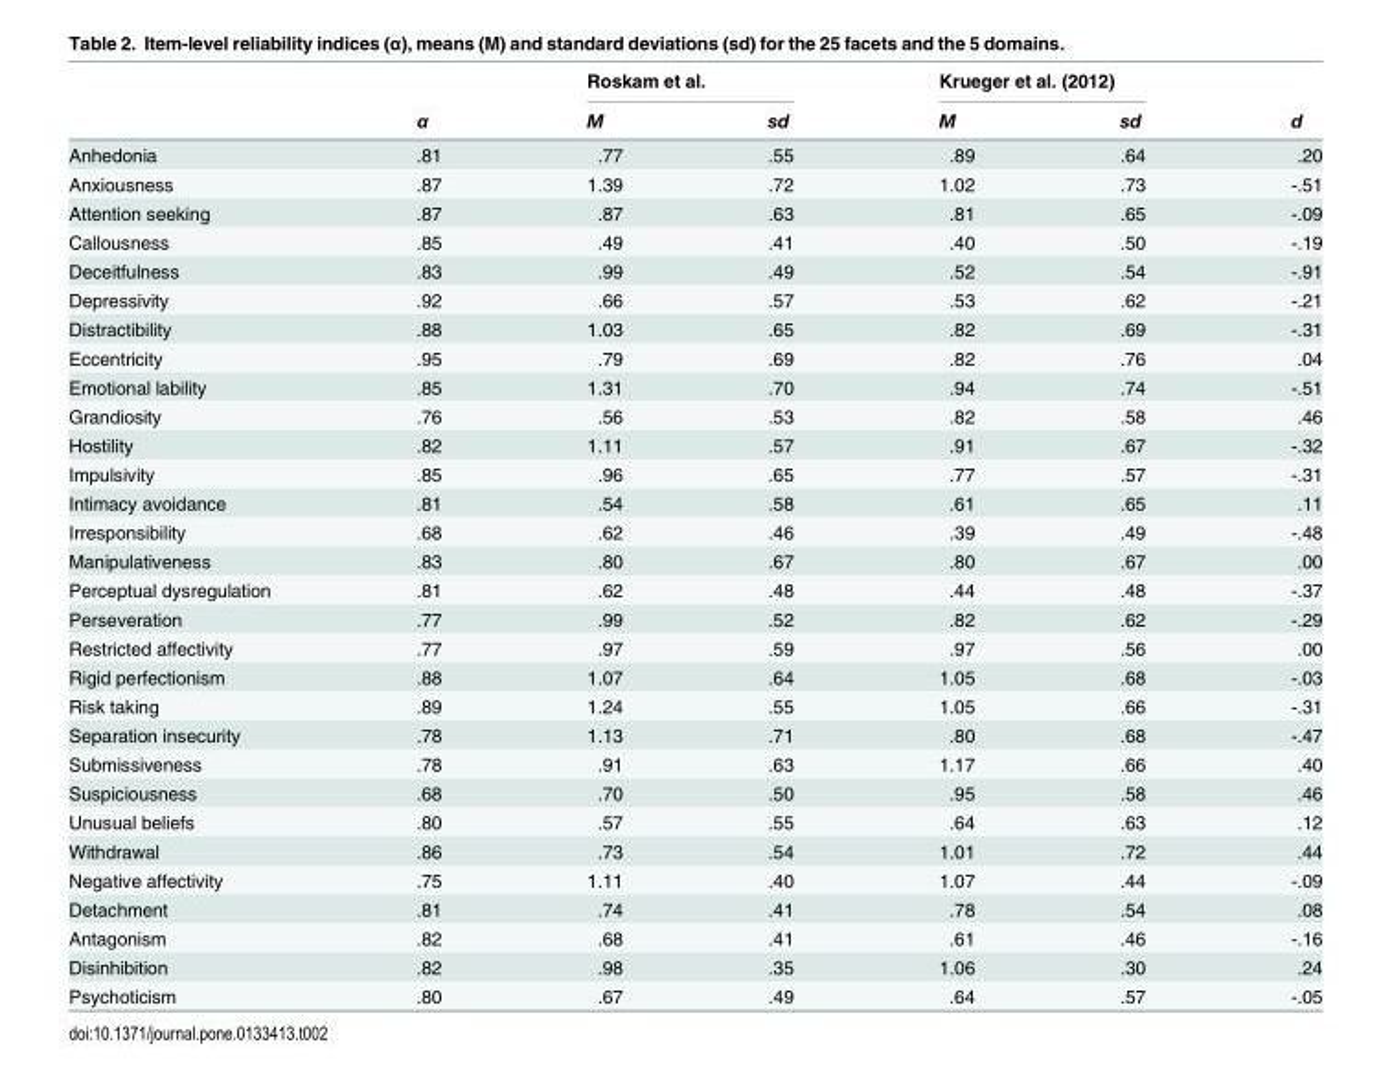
<table><thead><tr><td rowspan="2"></td><td rowspan="2">α</td><td colspan="2">Roskam et al.</td><td colspan="2">Krueger et al. (2012)</td><td rowspan="2">d</td></tr><tr><td>M</td><td>sd</td><td>M</td><td>sd</td></tr></thead><tbody><tr><td>Anhedonia</td><td>.81</td><td>.77</td><td>.55</td><td>.89</td><td>.64</td><td>.20</td></tr><tr><td>Anxiousness</td><td>.87</td><td>1.39</td><td>.72</td><td>1.02</td><td>.73</td><td>-.51</td></tr><tr><td>Attention seeking</td><td>.87</td><td>.87</td><td>.63</td><td>.81</td><td>.65</td><td>-.09</td></tr><tr><td>Callousness</td><td>.85</td><td>.49</td><td>.41</td><td>.40</td><td>.50</td><td>-.19</td></tr><tr><td>Deceitfulness</td><td>.83</td><td>.99</td><td>.49</td><td>.52</td><td>.54</td><td>-.91</td></tr><tr><td>Depressivity</td><td>.92</td><td>.66</td><td>.57</td><td>.53</td><td>.62</td><td>-.21</td></tr><tr><td>Distractibility</td><td>.88</td><td>1.03</td><td>.65</td><td>.82</td><td>.69</td><td>-.31</td></tr><tr><td>Eccentricity</td><td>.95</td><td>.79</td><td>.69</td><td>.82</td><td>.76</td><td>.04</td></tr><tr><td>Emotional lability</td><td>.85</td><td>1.31</td><td>.70</td><td>.94</td><td>.74</td><td>-.51</td></tr><tr><td>Grandiosity</td><td>.76</td><td>.56</td><td>.53</td><td>.82</td><td>.58</td><td>.46</td></tr><tr><td>Hostility</td><td>.82</td><td>1.11</td><td>.57</td><td>.91</td><td>.67</td><td>-.32</td></tr><tr><td>Impulsivity</td><td>.85</td><td>.96</td><td>.65</td><td>.77</td><td>.57</td><td>-.31</td></tr><tr><td>Intimacy avoidance</td><td>.81</td><td>.54</td><td>.58</td><td>.61</td><td>.65</td><td>.11</td></tr><tr><td>Irresponsibility</td><td>.68</td><td>.62</td><td>.46</td><td>.39</td><td>.49</td><td>-.48</td></tr><tr><td>Manipulativeness</td><td>.83</td><td>.80</td><td>.67</td><td>.80</td><td>.67</td><td>.00</td></tr><tr><td>Perceptual dysregulation</td><td>.81</td><td>.62</td><td>.48</td><td>.44</td><td>.48</td><td>-.37</td></tr><tr><td>Perseveration</td><td>.77</td><td>.99</td><td>.52</td><td>.82</td><td>.62</td><td>-.29</td></tr><tr><td>Restricted affectivity</td><td>.77</td><td>.97</td><td>.59</td><td>.97</td><td>.56</td><td>.00</td></tr><tr><td>Rigid perfectionism</td><td>.88</td><td>1.07</td><td>.64</td><td>1.05</td><td>.68</td><td>-.03</td></tr><tr><td>Risk taking</td><td>.89</td><td>1.24</td><td>.55</td><td>1.05</td><td>.66</td><td>-.31</td></tr><tr><td>Separation insecurity</td><td>.78</td><td>1.13</td><td>.71</td><td>.80</td><td>.68</td><td>-.47</td></tr><tr><td>Submissiveness</td><td>.78</td><td>.91</td><td>.63</td><td>1.17</td><td>.66</td><td>.40</td></tr><tr><td>Suspiciousness</td><td>.68</td><td>.70</td><td>.50</td><td>.95</td><td>.58</td><td>.46</td></tr><tr><td>Unusual beliefs</td><td>.80</td><td>.57</td><td>.55</td><td>.64</td><td>.63</td><td>.12</td></tr><tr><td>Withdrawal</td><td>.86</td><td>.73</td><td>.54</td><td>1.01</td><td>.72</td><td>.44</td></tr><tr><td>Negative affectivity</td><td>.75</td><td>1.11</td><td>.40</td><td>1.07</td><td>.44</td><td>-.09</td></tr><tr><td>Detachment</td><td>.81</td><td>.74</td><td>.41</td><td>.78</td><td>.54</td><td>.08</td></tr><tr><td>Antagonism</td><td>.82</td><td>.68</td><td>.41</td><td>.61</td><td>.46</td><td>-.16</td></tr><tr><td>Disinhibition</td><td>.82</td><td>.98</td><td>.35</td><td>1.06</td><td>.30</td><td>.24</td></tr><tr><td>Psychoticism</td><td>.80</td><td>.67</td><td>.49</td><td>.64</td><td>.57</td><td>-.05</td></tr></tbody></table>